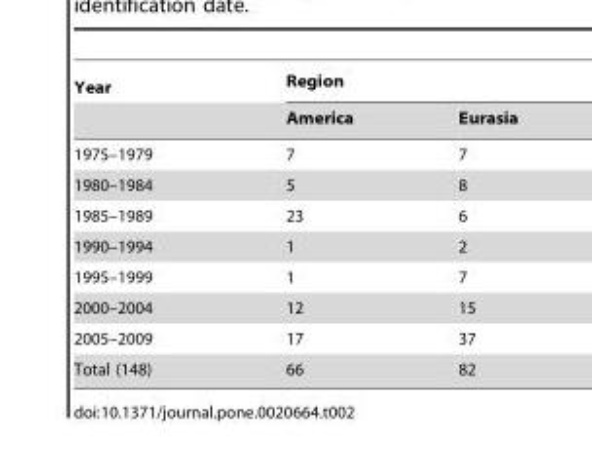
<table><thead><tr><td rowspan="2">Year</td><td colspan="2">Region</td></tr><tr><td>America</td><td>Eurasia</td></tr></thead><tbody><tr><td>1975–1979</td><td>7</td><td>7</td></tr><tr><td>1980–1984</td><td>5</td><td>8</td></tr><tr><td>1985–1989</td><td>23</td><td>6</td></tr><tr><td>1990–1994</td><td>1</td><td>2</td></tr><tr><td>1995–1999</td><td>1</td><td>7</td></tr><tr><td>2000–2004</td><td>12</td><td>15</td></tr><tr><td>2005–2009</td><td>17</td><td>37</td></tr><tr><td>Total (148)</td><td>66</td><td>82</td></tr></tbody></table>